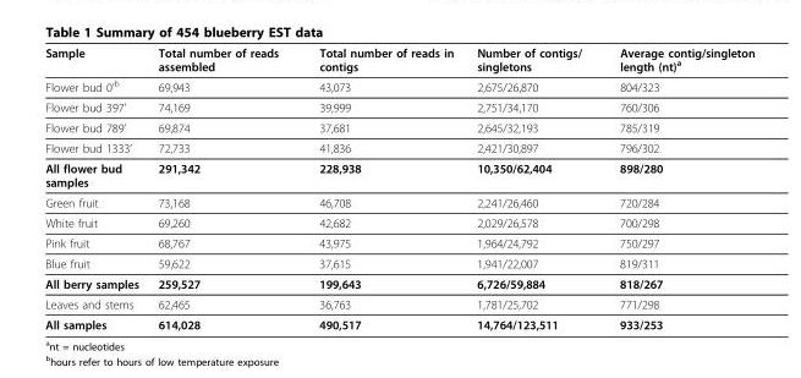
<table><thead><tr><td>Sample</td><td>Total number of reads assembled</td><td>Total number of reads in contigs</td><td>Number of contigs/ singletons</td><td>Average contig/singleton length (nt)<sup>a</sup></td></tr></thead><tbody><tr><td>Flower bud 0’<sup>b</sup></td><td>69,943</td><td>43,073</td><td>2,675/26,870</td><td>804/323</td></tr><tr><td>Flower bud 397’</td><td>74,169</td><td>39,999</td><td>2,751/34,170</td><td>760/306</td></tr><tr><td>Flower bud 789’</td><td>69,874</td><td>37,681</td><td>2,645/32,193</td><td>785/319</td></tr><tr><td>Flower bud 1333’</td><td>72,733</td><td>41,836</td><td>2,421/30,897</td><td>796/302</td></tr><tr><td>All flower bud samples</td><td>291,342</td><td>228,938</td><td>10,350/62,404</td><td>898/280</td></tr><tr><td>Green fruit</td><td>73,168</td><td>46,708</td><td>2,241/26,460</td><td>720/284</td></tr><tr><td>White fruit</td><td>69,260</td><td>42,682</td><td>2,029/26,578</td><td>700/298</td></tr><tr><td>Pink fruit</td><td>68,767</td><td>43,975</td><td>1,964/24,792</td><td>750/297</td></tr><tr><td>Blue fruit</td><td>59,622</td><td>37,615</td><td>1,941/22,007</td><td>819/311</td></tr><tr><td>All berry samples</td><td>259,527</td><td>199,643</td><td>6,726/59,884</td><td>818/267</td></tr><tr><td>Leaves and stems</td><td>62,465</td><td>36,763</td><td>1,781/25,702</td><td>771/298</td></tr><tr><td>All samples</td><td>614,028</td><td>490,517</td><td>14,764/123,511</td><td>933/253</td></tr></tbody></table>